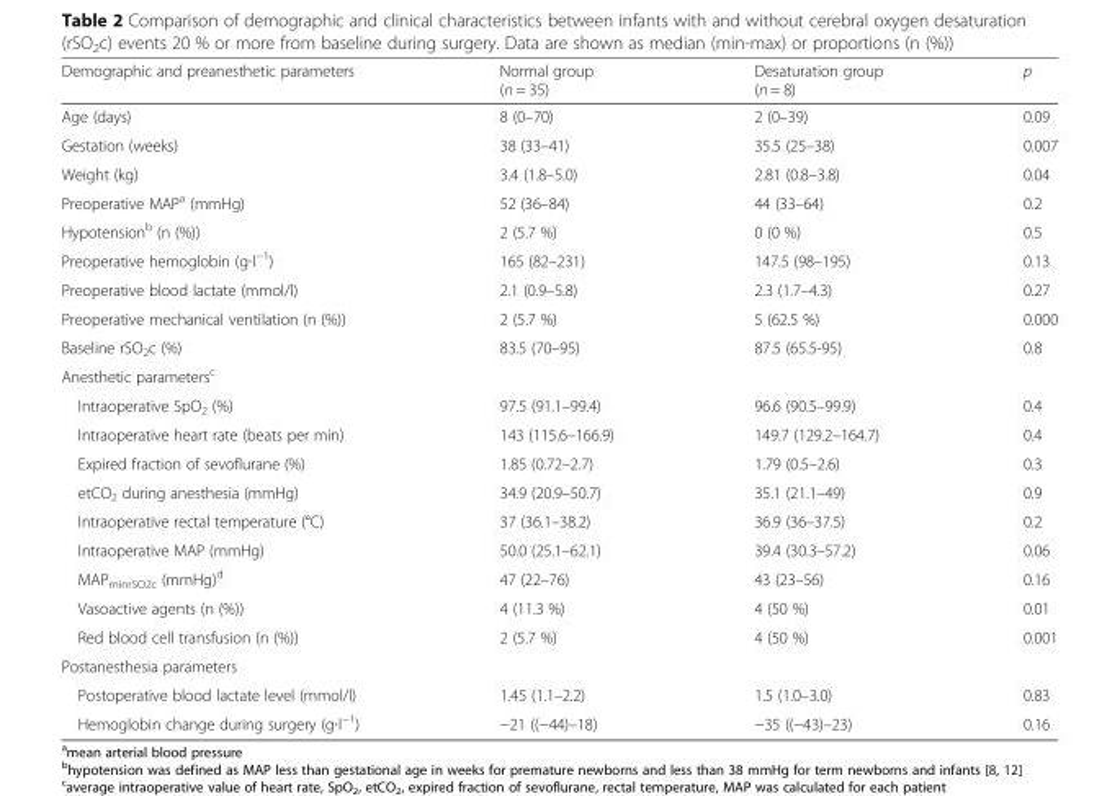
<table><thead><tr><td>Demographic and preanesthetic parameters</td><td>Normal group (n = 35)</td><td>Desaturation group (n = 8)</td><td>p</td></tr></thead><tbody><tr><td>Age (days)</td><td>8 (0–70)</td><td>2 (0–39)</td><td>0.09</td></tr><tr><td>Gestation (weeks)</td><td>38 (33–41)</td><td>35.5 (25–38)</td><td>0.007</td></tr><tr><td>Weight (kg)</td><td>3.4 (1.8–5.0)</td><td>2.81 (0.8–3.8)</td><td>0.04</td></tr><tr><td>Preoperative MAP<sup>a</sup> (mmHg)</td><td>52 (36–84)</td><td>44 (33–64)</td><td>0.2</td></tr><tr><td>Hypotension<sup>b</sup> (n (%))</td><td>2 (5.7 %)</td><td>0 (0 %)</td><td>0.5</td></tr><tr><td>Preoperative hemoglobin (g∙l<sup>−1</sup>)</td><td>165 (82–231)</td><td>147.5 (98–195)</td><td>0.13</td></tr><tr><td>Preoperative blood lactate (mmol/l)</td><td>2.1 (0.9–5.8)</td><td>2.3 (1.7–4.3)</td><td>0.27</td></tr><tr><td>Preoperative mechanical ventilation (n (%))</td><td>2 (5.7 %)</td><td>5 (62.5 %)</td><td>0.000</td></tr><tr><td>Baseline rSO<sub>2</sub>c (%)</td><td>83.5 (70–95)</td><td>87.5 (65.5-95)</td><td>0.8</td></tr><tr><td colspan="4">Anesthetic parameters<sup>c</sup></td></tr><tr><td>Intraoperative SpO<sub>2</sub> (%)</td><td>97.5 (91.1–99.4)</td><td>96.6 (90.5–99.9)</td><td>0.4</td></tr><tr><td>Intraoperative heart rate (beats per min)</td><td>143 (115.6–166.9)</td><td>149.7 (129.2–164.7)</td><td>0.4</td></tr><tr><td>Expired fraction of sevoflurane (%)</td><td>1.85 (0.72–2.7)</td><td>1.79 (0.5–2.6)</td><td>0.3</td></tr><tr><td>etCO<sub>2</sub> during anesthesia (mmHg)</td><td>34.9 (20.9–50.7)</td><td>35.1 (21.1–49)</td><td>0.9</td></tr><tr><td>Intraoperative rectal temperature (°C)</td><td>37 (36.1–38.2)</td><td>36.9 (36–37.5)</td><td>0.2</td></tr><tr><td>Intraoperative MAP (mmHg)</td><td>50.0 (25.1–62.1)</td><td>39.4 (30.3–57.2)</td><td>0.06</td></tr><tr><td>MAP<sub>minrSO2c</sub> (mmHg)<sup>d</sup></td><td>47 (22–76)</td><td>43 (23–56)</td><td>0.16</td></tr><tr><td>Vasoactive agents (n (%))</td><td>4 (11.3 %)</td><td>4 (50 %)</td><td>0.01</td></tr><tr><td>Red blood cell transfusion (n (%))</td><td>2 (5.7 %)</td><td>4 (50 %)</td><td>0.001</td></tr><tr><td colspan="4">Postanesthesia parameters</td></tr><tr><td>Postoperative blood lactate level (mmol/l)</td><td>1.45 (1.1–2.2)</td><td>1.5 (1.0–3.0)</td><td>0.83</td></tr><tr><td>Hemoglobin change during surgery (g∙l<sup>−1</sup>)</td><td>−21 ((−44)–18)</td><td>−35 ((−43)–23)</td><td>0.16</td></tr></tbody></table>